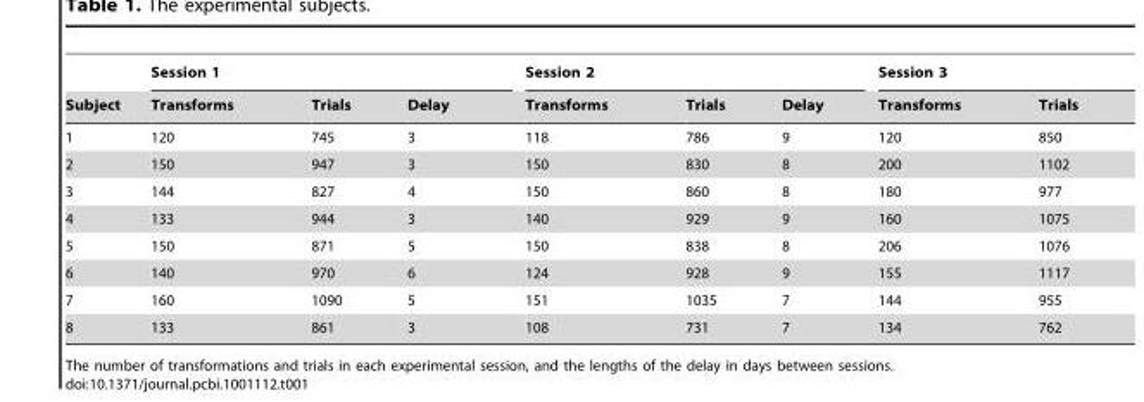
<table><thead><tr><td rowspan="2">Subject</td><td colspan="3">Session 1</td><td colspan="3">Session 2</td><td colspan="2">Session 3</td></tr><tr><td>Transforms</td><td>Trials</td><td>Delay</td><td>Transforms</td><td>Trials</td><td>Delay</td><td>Transforms</td><td>Trials</td></tr></thead><tbody><tr><td>1</td><td>120</td><td>745</td><td>3</td><td>118</td><td>786</td><td>9</td><td>120</td><td>850</td></tr><tr><td>2</td><td>150</td><td>947</td><td>3</td><td>150</td><td>830</td><td>8</td><td>200</td><td>1102</td></tr><tr><td>3</td><td>144</td><td>827</td><td>4</td><td>150</td><td>860</td><td>8</td><td>180</td><td>977</td></tr><tr><td>4</td><td>133</td><td>944</td><td>3</td><td>140</td><td>929</td><td>9</td><td>160</td><td>1075</td></tr><tr><td>5</td><td>150</td><td>871</td><td>5</td><td>150</td><td>838</td><td>8</td><td>206</td><td>1076</td></tr><tr><td>6</td><td>140</td><td>970</td><td>6</td><td>124</td><td>928</td><td>9</td><td>155</td><td>1117</td></tr><tr><td>7</td><td>160</td><td>1090</td><td>5</td><td>151</td><td>1035</td><td>7</td><td>144</td><td>955</td></tr><tr><td>8</td><td>133</td><td>861</td><td>3</td><td>108</td><td>731</td><td>7</td><td>134</td><td>762</td></tr></tbody></table>